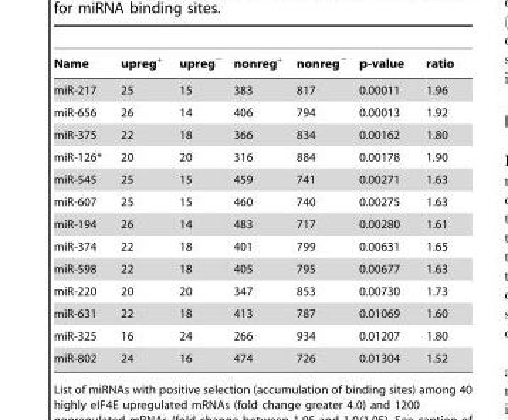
<table><thead><tr><td>Name</td><td>upreg<sup>+</sup></td><td>upreg<sup>−</sup></td><td>nonreg<sup>+</sup></td><td>nonreg<sup>−</sup></td><td>p-value</td><td>ratio</td></tr></thead><tbody><tr><td>miR-217</td><td>25</td><td>15</td><td>383</td><td>817</td><td>0.00011</td><td>1.96</td></tr><tr><td>miR-656</td><td>26</td><td>14</td><td>406</td><td>794</td><td>0.00013</td><td>1.92</td></tr><tr><td>miR-375</td><td>22</td><td>18</td><td>366</td><td>834</td><td>0.00162</td><td>1.80</td></tr><tr><td>miR-126*</td><td>20</td><td>20</td><td>316</td><td>884</td><td>0.00178</td><td>1.90</td></tr><tr><td>miR-545</td><td>25</td><td>15</td><td>459</td><td>741</td><td>0.00271</td><td>1.63</td></tr><tr><td>miR-607</td><td>25</td><td>15</td><td>460</td><td>740</td><td>0.00275</td><td>1.63</td></tr><tr><td>miR-194</td><td>26</td><td>14</td><td>483</td><td>717</td><td>0.00280</td><td>1.61</td></tr><tr><td>miR-374</td><td>22</td><td>18</td><td>401</td><td>799</td><td>0.00631</td><td>1.65</td></tr><tr><td>miR-598</td><td>22</td><td>18</td><td>405</td><td>795</td><td>0.00677</td><td>1.63</td></tr><tr><td>miR-220</td><td>20</td><td>20</td><td>347</td><td>853</td><td>0.00730</td><td>1.73</td></tr><tr><td>miR-631</td><td>22</td><td>18</td><td>413</td><td>787</td><td>0.01069</td><td>1.60</td></tr><tr><td>miR-325</td><td>16</td><td>24</td><td>266</td><td>934</td><td>0.01207</td><td>1.80</td></tr><tr><td>miR-802</td><td>24</td><td>16</td><td>474</td><td>726</td><td>0.01304</td><td>1.52</td></tr></tbody></table>